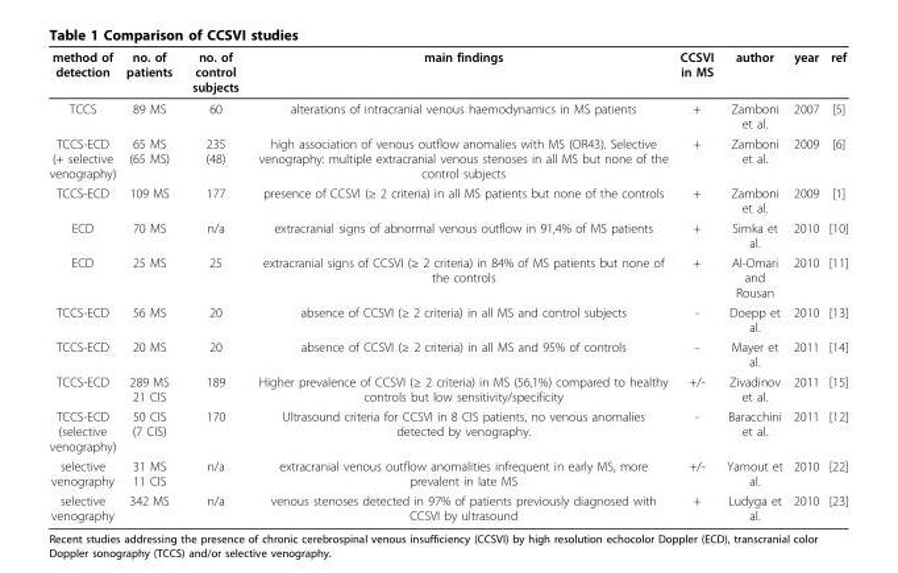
<table><thead><tr><td>method of detection</td><td>no. of patients</td><td>no. of control subjects</td><td>main findings</td><td>CCSVI in MS</td><td>author</td><td>year</td><td>ref</td></tr></thead><tbody><tr><td>TCCS</td><td>89 MS</td><td>60</td><td>alterations of intracranial venous haemodynamics in MS patients</td><td>+</td><td>Zamboni et al.</td><td>2007</td><td>[5]</td></tr><tr><td>TCCS-ECD (+ selective venography)</td><td>65 MS (65 MS)</td><td>235 (48)</td><td>high association of venous outflow anomalies with MS (OR43). Selective venography: multiple extracranial venous stenoses in all MS but none of the control subjects</td><td>+</td><td>Zamboni et al.</td><td>2009</td><td>[6]</td></tr><tr><td>TCCS-ECD</td><td>109 MS</td><td>177</td><td>presence of CCSVI (≥ 2 criteria) in all MS patients but none of the controls</td><td>+</td><td>Zamboni et al.</td><td>2009</td><td>[1]</td></tr><tr><td>ECD</td><td>70 MS</td><td>n/a</td><td>extracranial signs of abnormal venous outflow in 91,4% of MS patients</td><td>+</td><td>Simka et al.</td><td>2010</td><td>[10]</td></tr><tr><td>ECD</td><td>25 MS</td><td>25</td><td>extracranial signs of CCSVI (≥ 2 criteria) in 84% of MS patients but none of the controls</td><td>+</td><td>Al-Omari and Rousan</td><td>2010</td><td>[11]</td></tr><tr><td>TCCS-ECD</td><td>56 MS</td><td>20</td><td>absence of CCSVI (≥ 2 criteria) in all MS and control subjects</td><td>-</td><td>Doepp et al.</td><td>2010</td><td>[13]</td></tr><tr><td>TCCS-ECD</td><td>20 MS</td><td>20</td><td>absence of CCSVI (≥ 2 criteria) in all MS and 95% of controls</td><td>-</td><td>Mayer et al.</td><td>2011</td><td>[14]</td></tr><tr><td>TCCS-ECD</td><td>289 MS 21 CIS</td><td>189</td><td>Higher prevalence of CCSVI (≥ 2 criteria) in MS (56,1%) compared to healthy controls but low sensitivity/specificity</td><td>+/-</td><td>Zivadinov et al.</td><td>2011</td><td>[15]</td></tr><tr><td>TCCS-ECD (selective venography)</td><td>50 CIS (7 CIS)</td><td>170</td><td>Ultrasound criteria for CCSVI in 8 CIS patients, no venous anomalies detected by venography.</td><td>-</td><td>Baracchini et al.</td><td>2011</td><td>[12]</td></tr><tr><td>selective venography</td><td>31 MS 11 CIS</td><td>n/a</td><td>extracranial venous outflow anomalities infrequent in early MS, more prevalent in late MS</td><td>+/-</td><td>Yamout et al.</td><td>2010</td><td>[22]</td></tr><tr><td>selective venography</td><td>342 MS</td><td>n/a</td><td>venous stenoses detected in 97% of patients previously diagnosed with CCSVI by ultrasound</td><td>+</td><td>Ludyga et al.</td><td>2010</td><td>[23]</td></tr></tbody></table>